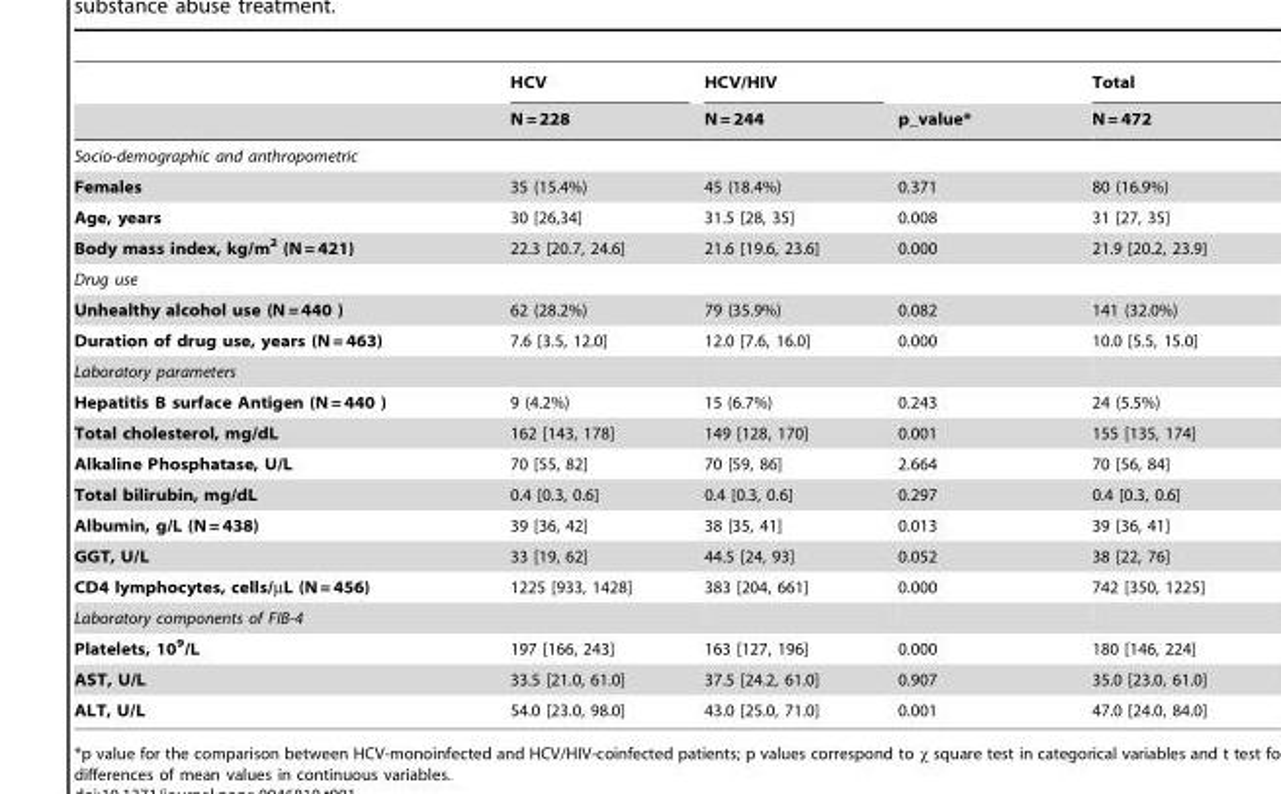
<table><thead><tr><td rowspan="2"></td><td rowspan="2">HCV N = 228</td><td rowspan="2">HCV/HIV N = 244</td><td rowspan="2">p_value*</td><td rowspan="2">Total N = 472</td></tr><tr></tr></thead><tbody><tr><td colspan="5">Socio-demographic and anthropometric</td></tr><tr><td>Females</td><td>35 (15.4%)</td><td>45 (18.4%)</td><td>0.371</td><td>80 (16.9%)</td></tr><tr><td>Age, years</td><td>30 [26,34]</td><td>31.5 [28, 35]</td><td>0.008</td><td>31 [27, 35]</td></tr><tr><td>Body mass index, kg/m<sup>2</sup> (N = 421)</td><td>22.3 [20.7, 24.6]</td><td>21.6 [19.6, 23.6]</td><td>0.000</td><td>21.9 [20.2, 23.9]</td></tr><tr><td colspan="5">Drug use</td></tr><tr><td>Unhealthy alcohol use (N = 440 )</td><td>62 (28.2%)</td><td>79 (35.9%)</td><td>0.082</td><td>141 (32.0%)</td></tr><tr><td>Duration of drug use, years (N = 463)</td><td>7.6 [3.5, 12.0]</td><td>12.0 [7.6, 16.0]</td><td>0.000</td><td>10.0 [5.5, 15.0]</td></tr><tr><td colspan="5">Laboratory parameters</td></tr><tr><td>Hepatitis B surface Antigen (N = 440 )</td><td>9 (4.2%)</td><td>15 (6.7%)</td><td>0.243</td><td>24 (5.5%)</td></tr><tr><td>Total cholesterol, mg/dL</td><td>162 [143, 178]</td><td>149 [128, 170]</td><td>0.001</td><td>155 [135, 174]</td></tr><tr><td>Alkaline Phosphatase, U/L</td><td>70 [55, 82]</td><td>70 [59, 86]</td><td>2.664</td><td>70 [56, 84]</td></tr><tr><td>Total bilirubin, mg/dL</td><td>0.4 [0.3, 0.6]</td><td>0.4 [0.3, 0.6]</td><td>0.297</td><td>0.4 [0.3, 0.6]</td></tr><tr><td>Albumin, g/L (N = 438)</td><td>39 [36, 42]</td><td>38 [35, 41]</td><td>0.013</td><td>39 [36, 41]</td></tr><tr><td>GGT, U/L</td><td>33 [19, 62]</td><td>44.5 [24, 93]</td><td>0.052</td><td>38 [22, 76]</td></tr><tr><td>CD4 lymphocytes, cells/µL (N = 456)</td><td>1225 [933, 1428]</td><td>383 [204, 661]</td><td>0.000</td><td>742 [350, 1225]</td></tr><tr><td colspan="5">Laboratory components of FIB-4</td></tr><tr><td>Platelets, 10<sup>9</sup>/L</td><td>197 [166, 243]</td><td>163 [127, 196]</td><td>0.000</td><td>180 [146, 224]</td></tr><tr><td>AST, U/L</td><td>33.5 [21.0, 61.0]</td><td>37.5 [24.2, 61.0]</td><td>0.907</td><td>35.0 [23.0, 61.0]</td></tr><tr><td>ALT, U/L</td><td>54.0 [23.0, 98.0]</td><td>43.0 [25.0, 71.0]</td><td>0.001</td><td>47.0 [24.0, 84.0]</td></tr></tbody></table>